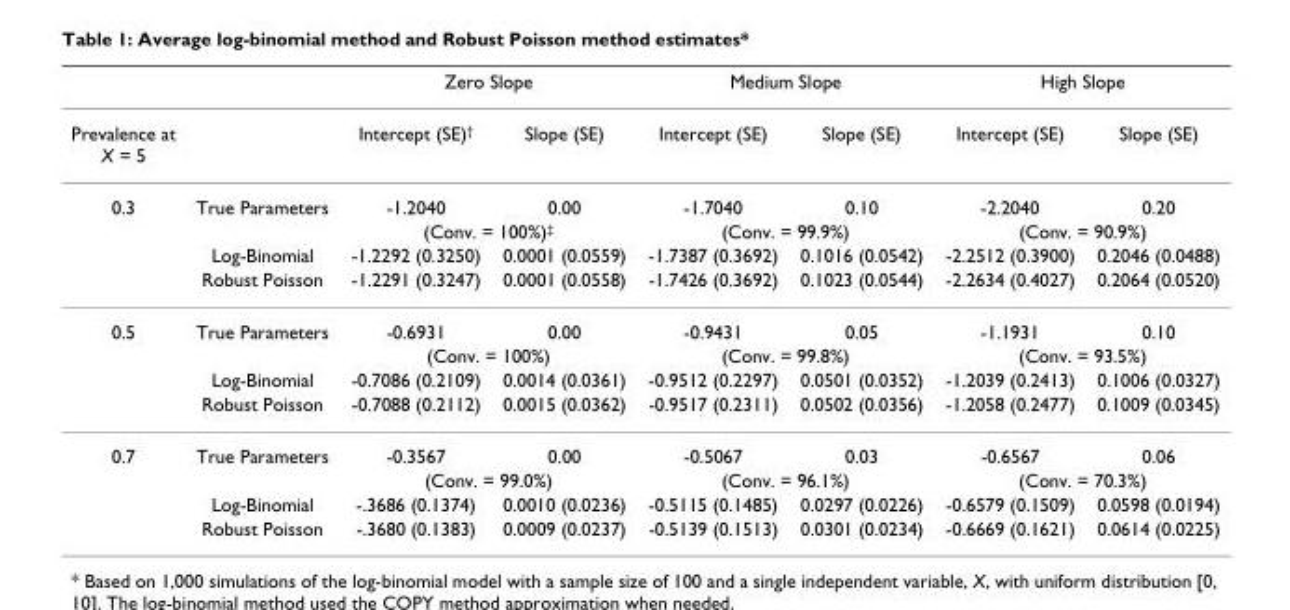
<table><thead><tr><td rowspan="2">Prevalence at X = 5</td><td rowspan="2"></td><td colspan="2">Zero Slope</td><td colspan="2">Medium Slope</td><td colspan="2">High Slope</td></tr><tr><td>Intercept (SE)<sup>†</sup></td><td>Slope (SE)</td><td>Intercept (SE)</td><td>Slope (SE)</td><td>Intercept (SE)</td><td>Slope (SE)</td></tr></thead><tbody><tr><td rowspan="4">0.3</td><td>True Parameters</td><td>-1.2040</td><td>0.00</td><td>-1.7040</td><td>0.10</td><td>-2.2040</td><td>0.20</td></tr><tr><td></td><td colspan="2">(Conv. = 100%)<sup>‡</sup></td><td colspan="2">(Conv. = 99.9%)</td><td colspan="2">(Conv. = 90.9%)</td></tr><tr><td>Log-Binomial</td><td>-1.2292 (0.3250)</td><td>0.0001 (0.0559)</td><td>-1.7387 (0.3692)</td><td>0.1016 (0.0542)</td><td>-2.2512 (0.3900)</td><td>0.2046 (0.0488)</td></tr><tr><td>Robust Poisson</td><td>-1.2291 (0.3247)</td><td>0.0001 (0.0558)</td><td>-1.7426 (0.3692)</td><td>0.1023 (0.0544)</td><td>-2.2634 (0.4027)</td><td>0.2064 (0.0520)</td></tr><tr><td rowspan="4">0.5</td><td>True Parameters</td><td>-0.6931</td><td>0.00</td><td>-0.9431</td><td>0.05</td><td>-1.1931</td><td>0.10</td></tr><tr><td></td><td colspan="2">(Conv. = 100%)</td><td colspan="2">(Conv. = 99.8%)</td><td colspan="2">(Conv. = 93.5%)</td></tr><tr><td>Log-Binomial</td><td>-0.7086 (0.2109)</td><td>0.0014 (0.0361)</td><td>-0.9512 (0.2297)</td><td>0.0501 (0.0352)</td><td>-1.2039 (0.2413)</td><td>0.1006 (0.0327)</td></tr><tr><td>Robust Poisson</td><td>-0.7088 (0.2112)</td><td>0.0015 (0.0362)</td><td>-0.9517 (0.2311)</td><td>0.0502 (0.0356)</td><td>-1.2058 (0.2477)</td><td>0.1009 (0.0345)</td></tr><tr><td rowspan="4">0.7</td><td>True Parameters</td><td>-0.3567</td><td>0.00</td><td>-0.5067</td><td>0.03</td><td>-0.6567</td><td>0.06</td></tr><tr><td></td><td colspan="2">(Conv. = 99.0%)</td><td colspan="2">(Conv. = 96.1%)</td><td colspan="2">(Conv. = 70.3%)</td></tr><tr><td>Log-Binomial</td><td>-.3686 (0.1374)</td><td>0.0010 (0.0236)</td><td>-0.5115 (0.1485)</td><td>0.0297 (0.0226)</td><td>-0.6579 (0.1509)</td><td>0.0598 (0.0194)</td></tr><tr><td>Robust Poisson</td><td>-.3680 (0.1383)</td><td>0.0009 (0.0237)</td><td>-0.5139 (0.1513)</td><td>0.0301 (0.0234)</td><td>-0.6669 (0.1621)</td><td>0.0614 (0.0225)</td></tr></tbody></table>